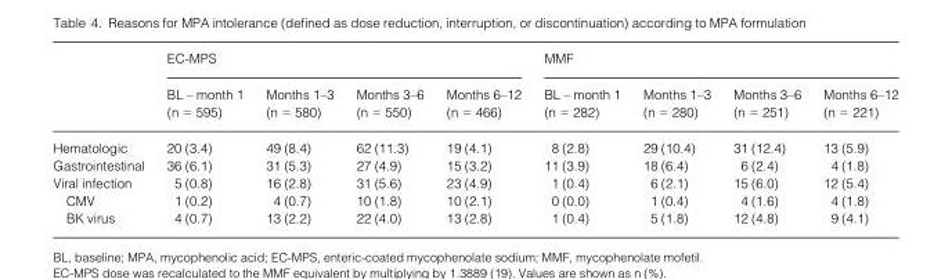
<table><thead><tr><td rowspan="2"></td><td colspan="4">EC-MPS</td><td colspan="4">MMF</td></tr><tr><td>BL – month 1 (n = 595)</td><td>Months 1–3 (n = 580)</td><td>Months 3–6 (n = 550)</td><td>Months 6–12 (n = 466)</td><td>BL – month 1 (n = 282)</td><td>Months 1–3 (n = 280)</td><td>Months 3–6 (n = 251)</td><td>Months 6–12 (n = 221)</td></tr></thead><tbody><tr><td>Hematologic</td><td>20 (3.4)</td><td>49 (8.4)</td><td>62 (11.3)</td><td>19 (4.1)</td><td>8 (2.8)</td><td>29 (10.4)</td><td>31 (12.4)</td><td>13 (5.9)</td></tr><tr><td>Gastrointestinal</td><td>36 (6.1)</td><td>31 (5.3)</td><td>27 (4.9)</td><td>15 (3.2)</td><td>11 (3.9)</td><td>18 (6.4)</td><td>6 (2.4)</td><td>4 (1.8)</td></tr><tr><td>Viral infection</td><td>5 (0.8)</td><td>16 (2.8)</td><td>31 (5.6)</td><td>23 (4.9)</td><td>1 (0.4)</td><td>6 (2.1)</td><td>15 (6.0)</td><td>12 (5.4)</td></tr><tr><td>CMV</td><td>1 (0.2)</td><td>4 (0.7)</td><td>10 (1.8)</td><td>10 (2.1)</td><td>0 (0.0)</td><td>1 (0.4)</td><td>4 (1.6)</td><td>4 (1.8)</td></tr><tr><td>BK virus</td><td>4 (0.7)</td><td>13 (2.2)</td><td>22 (4.0)</td><td>13 (2.8)</td><td>1 (0.4)</td><td>5 (1.8)</td><td>12 (4.8)</td><td>9 (4.1)</td></tr></tbody></table>